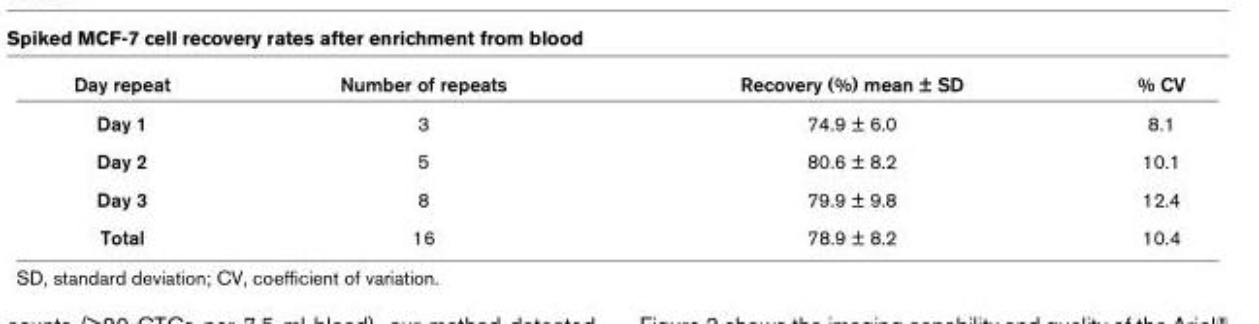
<table><thead><tr><td>Day repeat</td><td>Number of repeats</td><td>Recovery (%) mean ± SD</td><td>% CV</td></tr></thead><tbody><tr><td>Day 1</td><td>3</td><td>74.9 ± 6.0</td><td>8.1</td></tr><tr><td>Day 2</td><td>5</td><td>80.6 ± 8.2</td><td>10.1</td></tr><tr><td>Day 3</td><td>8</td><td>79.9 ± 9.8</td><td>12.4</td></tr><tr><td>Total</td><td>16</td><td>78.9 ± 8.2</td><td>10.4</td></tr></tbody></table>